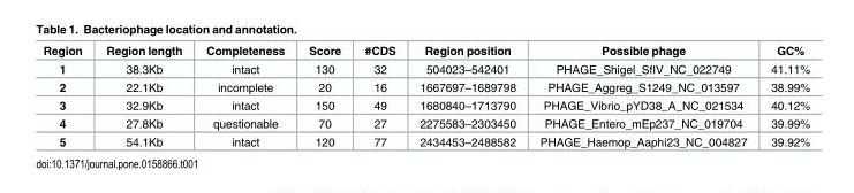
<table><thead><tr><td>Region</td><td>Region length</td><td>Completeness</td><td>Score</td><td>#CDS</td><td>Region position</td><td>Possible phage</td><td>GC%</td></tr></thead><tbody><tr><td>1</td><td>38.3Kb</td><td>intact</td><td>130</td><td>32</td><td>504023–542401</td><td>PHAGE_Shigel_SfIV_NC_022749</td><td>41.11%</td></tr><tr><td>2</td><td>22.1Kb</td><td>incomplete</td><td>20</td><td>16</td><td>1667697–1689798</td><td>PHAGE_Aggreg_S1249_NC_013597</td><td>38.99%</td></tr><tr><td>3</td><td>32.9Kb</td><td>intact</td><td>150</td><td>49</td><td>1680840–1713790</td><td>PHAGE_Vibrio_pYD38_A_NC_021534</td><td>40.12%</td></tr><tr><td>4</td><td>27.8Kb</td><td>questionable</td><td>70</td><td>27</td><td>2275583–2303450</td><td>PHAGE_Entero_mEp237_NC_019704</td><td>39.99%</td></tr><tr><td>5</td><td>54.1Kb</td><td>intact</td><td>120</td><td>77</td><td>2434453–2488582</td><td>PHAGE_Haemop_Aaphi23_NC_004827</td><td>39.92%</td></tr></tbody></table>